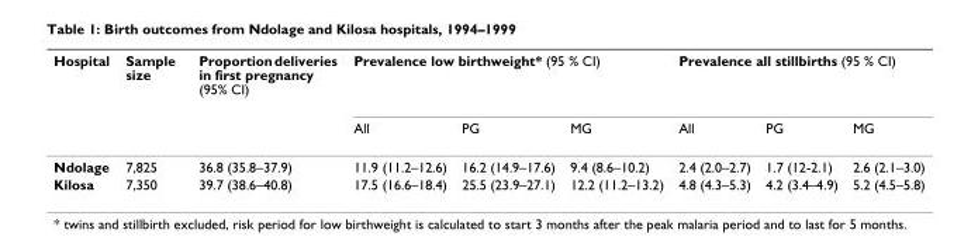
<table><thead><tr><td rowspan="2">Hospital</td><td rowspan="2">Sample size</td><td rowspan="2">Proportion deliveries in first pregnancy (95% CI)</td><td colspan="3">Prevalence low birthweight* (95 % CI)</td><td colspan="3">Prevalence all stillbirths (95 % CI)</td></tr><tr><td>All</td><td>PG</td><td>MG</td><td>All</td><td>PG</td><td>MG</td></tr></thead><tbody><tr><td>Ndolage</td><td>7,825</td><td>36.8 (35.8–37.9)</td><td>11.9 (11.2–12.6)</td><td>16.2 (14.9–17.6)</td><td>9.4 (8.6–10.2)</td><td>2.4 (2.0–2.7)</td><td>1.7 (12-2.1)</td><td>2.6 (2.1–3.0)</td></tr><tr><td>Kilosa</td><td>7,350</td><td>39.7 (38.6–40.8)</td><td>17.5 (16.6–18.4)</td><td>25.5 (23.9–27.1)</td><td>12.2 (11.2–13.2)</td><td>4.8 (4.3–5.3)</td><td>4.2 (3.4–4.9)</td><td>5.2 (4.5–5.8)</td></tr></tbody></table>